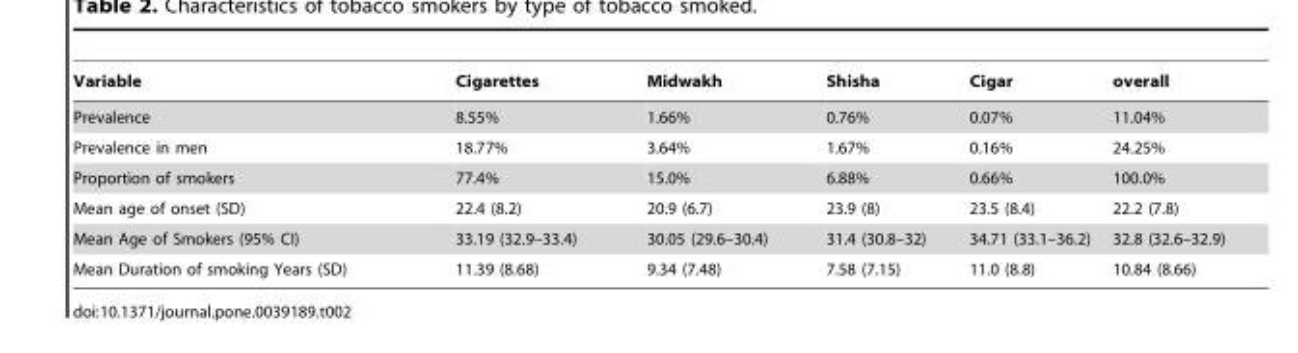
<table><thead><tr><td>Variable</td><td>Cigarettes</td><td>Midwakh</td><td>Shisha</td><td>Cigar</td><td>overall</td></tr></thead><tbody><tr><td>Prevalence</td><td>8.55%</td><td>1.66%</td><td>0.76%</td><td>0.07%</td><td>11.04%</td></tr><tr><td>Prevalence in men</td><td>18.77%</td><td>3.64%</td><td>1.67%</td><td>0.16%</td><td>24.25%</td></tr><tr><td>Proportion of smokers</td><td>77.4%</td><td>15.0%</td><td>6.88%</td><td>0.66%</td><td>100.0%</td></tr><tr><td>Mean age of onset (SD)</td><td>22.4 (8.2)</td><td>20.9 (6.7)</td><td>23.9 (8)</td><td>23.5 (8.4)</td><td>22.2 (7.8)</td></tr><tr><td>Mean Age of Smokers (95% CI)</td><td>33.19 (32.9–33.4)</td><td>30.05 (29.6–30.4)</td><td>31.4 (30.8–32)</td><td>34.71 (33.1–36.2)</td><td>32.8 (32.6–32.9)</td></tr><tr><td>Mean Duration of smoking Years (SD)</td><td>11.39 (8.68)</td><td>9.34 (7.48)</td><td>7.58 (7.15)</td><td>11.0 (8.8)</td><td>10.84 (8.66)</td></tr></tbody></table>